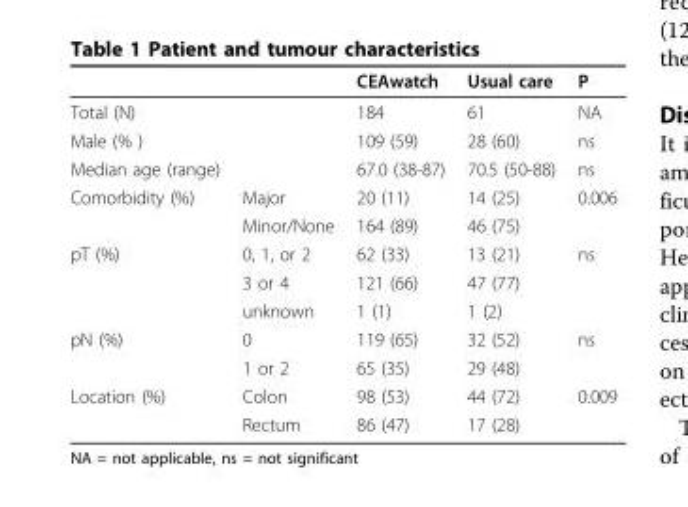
<table><thead><tr><td></td><td></td><td>CEAwatch</td><td>Usual care</td><td>P</td></tr></thead><tbody><tr><td>Total (N)</td><td></td><td>184</td><td>61</td><td>NA</td></tr><tr><td>Male (% )</td><td></td><td>109 (59)</td><td>28 (60)</td><td>ns</td></tr><tr><td>Median age (range)</td><td></td><td>67.0 (38-87)</td><td>70.5 (50-88)</td><td>ns</td></tr><tr><td rowspan="2">Comorbidity (%)</td><td>Major</td><td>20 (11)</td><td>14 (25)</td><td>0.006</td></tr><tr><td>Minor/None</td><td>164 (89)</td><td>46 (75)</td><td></td></tr><tr><td rowspan="3">pT (%)</td><td>0, 1, or 2</td><td>62 (33)</td><td>13 (21)</td><td>ns</td></tr><tr><td>3 or 4</td><td>121 (66)</td><td>47 (77)</td><td></td></tr><tr><td>unknown</td><td>1 (1)</td><td>1 (2)</td><td></td></tr><tr><td rowspan="2">pN (%)</td><td>0</td><td>119 (65)</td><td>32 (52)</td><td>ns</td></tr><tr><td>1 or 2</td><td>65 (35)</td><td>29 (48)</td><td></td></tr><tr><td rowspan="2">Location (%)</td><td>Colon</td><td>98 (53)</td><td>44 (72)</td><td>0.009</td></tr><tr><td>Rectum</td><td>86 (47)</td><td>17 (28)</td><td></td></tr></tbody></table>